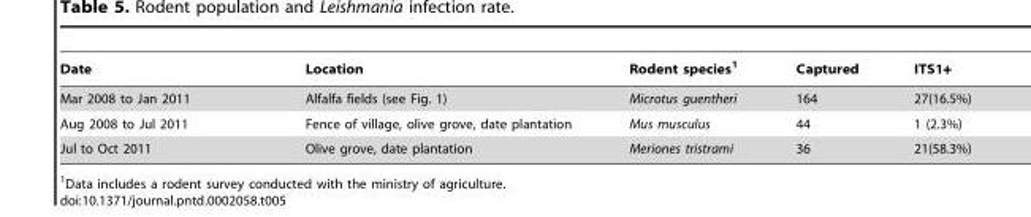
<table><thead><tr><td>Date</td><td>Location</td><td>Rodent species<sup>1</sup></td><td>Captured</td><td>ITS1+</td></tr></thead><tbody><tr><td>Mar 2008 to Jan 2011</td><td>Alfalfa fields (see Fig. 1)</td><td>Microtus guentheri</td><td>164</td><td>27(16.5%)</td></tr><tr><td>Aug 2008 to Jul 2011</td><td>Fence of village, olive grove, date plantation</td><td>Mus musculus</td><td>44</td><td>1 (2.3%)</td></tr><tr><td>Jul to Oct 2011</td><td>Olive grove, date plantation</td><td>Meriones tristrami</td><td>36</td><td>21(58.3%)</td></tr></tbody></table>